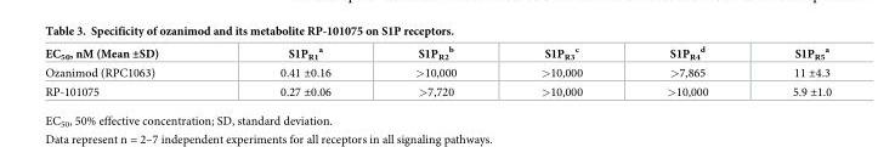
<table><thead><tr><td>EC<sub>50</sub>, nM (Mean ±SD)</td><td>S1P<sub>R1</sub> <sup>a</sup></td><td>S1P<sub>R2</sub> <sup>b</sup></td><td>S1P<sub>R3</sub> <sup>c</sup></td><td>S1P<sub>R4</sub> <sup>d</sup></td><td>S1P<sub>R5</sub> <sup>a</sup></td></tr></thead><tbody><tr><td>Ozanimod (RPC1063)</td><td>0.41 ±0.16</td><td>&gt;10,000</td><td>&gt;10,000</td><td>&gt;7,865</td><td>11 ±4.3</td></tr><tr><td>RP-101075</td><td>0.27 ±0.06</td><td>&gt;7,720</td><td>&gt;10,000</td><td>&gt;10,000</td><td>5.9 ±1.0</td></tr></tbody></table>